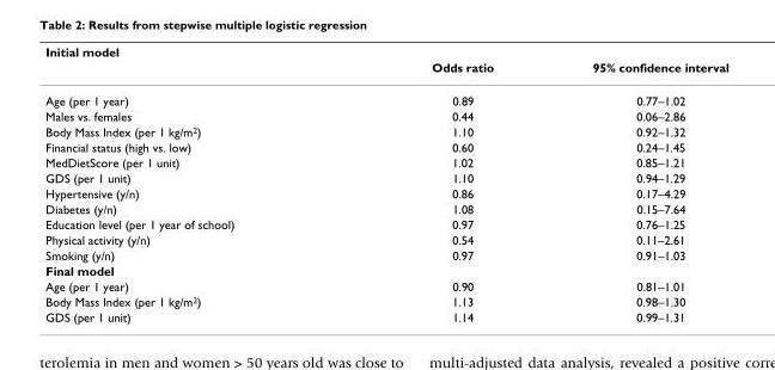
<table><thead><tr><td rowspan="2">Initial model</td><td rowspan="2">Odds ratio</td><td rowspan="2">95% confidence interval</td></tr><tr></tr></thead><tbody><tr><td>Age (per 1 year)</td><td>0.89</td><td>0.77–1.02</td></tr><tr><td>Males vs. females</td><td>0.44</td><td>0.06–2.86</td></tr><tr><td>Body Mass Index (per 1 kg/m<sup>2</sup>)</td><td>1.10</td><td>0.92–1.32</td></tr><tr><td>Financial status (high vs. low)</td><td>0.60</td><td>0.24–1.45</td></tr><tr><td>MedDietScore (per 1 unit)</td><td>1.02</td><td>0.85–1.21</td></tr><tr><td>GDS (per 1 unit)</td><td>1.10</td><td>0.94–1.29</td></tr><tr><td>Hypertensive (y/n)</td><td>0.86</td><td>0.17–4.29</td></tr><tr><td>Diabetes (y/n)</td><td>1.08</td><td>0.15–7.64</td></tr><tr><td>Education level (per 1 year of school)</td><td>0.97</td><td>0.76–1.25</td></tr><tr><td>Physical activity (y/n)</td><td>0.54</td><td>0.11–2.61</td></tr><tr><td>Smoking (y/n)</td><td>0.97</td><td>0.91–1.03</td></tr><tr><td colspan="3">Final model</td></tr><tr><td>Age (per 1 year)</td><td>0.90</td><td>0.81–1.01</td></tr><tr><td>Body Mass Index (per 1 kg/m<sup>2</sup>)</td><td>1.13</td><td>0.98–1.30</td></tr><tr><td>GDS (per 1 unit)</td><td>1.14</td><td>0.99–1.31</td></tr></tbody></table>